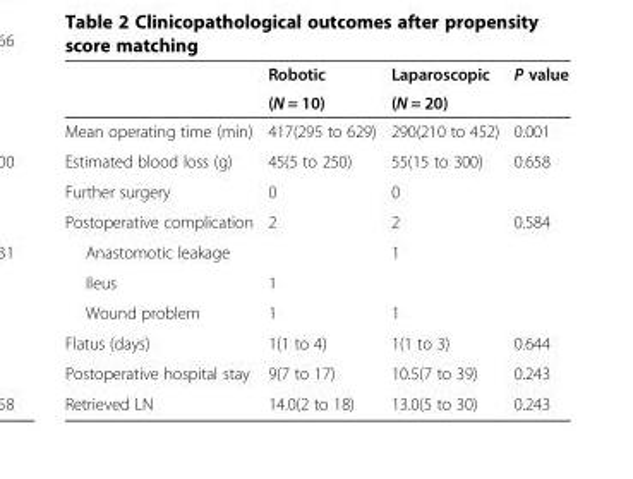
<table><thead><tr><td rowspan="2"></td><td rowspan="2">Robotic (N = 10)</td><td rowspan="2">Laparoscopic (N = 20)</td><td rowspan="2">P value</td></tr><tr></tr></thead><tbody><tr><td>Mean operating time (min)</td><td>417(295 to 629)</td><td>290(210 to 452)</td><td>0.001</td></tr><tr><td>Estimated blood loss (g)</td><td>45(5 to 250)</td><td>55(15 to 300)</td><td>0.658</td></tr><tr><td>Further surgery</td><td>0</td><td>0</td><td></td></tr><tr><td>Postoperative complication</td><td>2</td><td>2</td><td>0.584</td></tr><tr><td>Anastomotic leakage</td><td></td><td>1</td><td></td></tr><tr><td>Ileus</td><td>1</td><td></td><td></td></tr><tr><td>Wound problem</td><td>1</td><td>1</td><td></td></tr><tr><td>Flatus (days)</td><td>1(1 to 4)</td><td>1(1 to 3)</td><td>0.644</td></tr><tr><td>Postoperative hospital stay</td><td>9(7 to 17)</td><td>10.5(7 to 39)</td><td>0.243</td></tr><tr><td>Retrieved LN</td><td>14.0(2 to 18)</td><td>13.0(5 to 30)</td><td>0.243</td></tr></tbody></table>